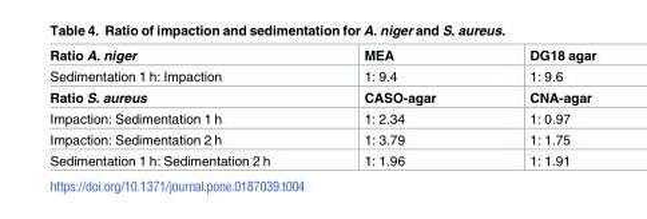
<table><tbody><tr><td>Ratio A. niger</td><td>MEA</td><td>DG18 agar</td></tr><tr><td>Sedimentation 1 h: Impaction</td><td>1: 9.4</td><td>1: 9.6</td></tr><tr><td>Ratio S. aureus</td><td>CASO-agar</td><td>CNA-agar</td></tr><tr><td>Impaction: Sedimentation 1 h</td><td>1: 2.34</td><td>1: 0.97</td></tr><tr><td>Impaction: Sedimentation 2 h</td><td>1: 3.79</td><td>1: 1.75</td></tr><tr><td>Sedimentation 1 h: Sedimentation 2 h</td><td>1: 1.96</td><td>1: 1.91</td></tr></tbody></table>